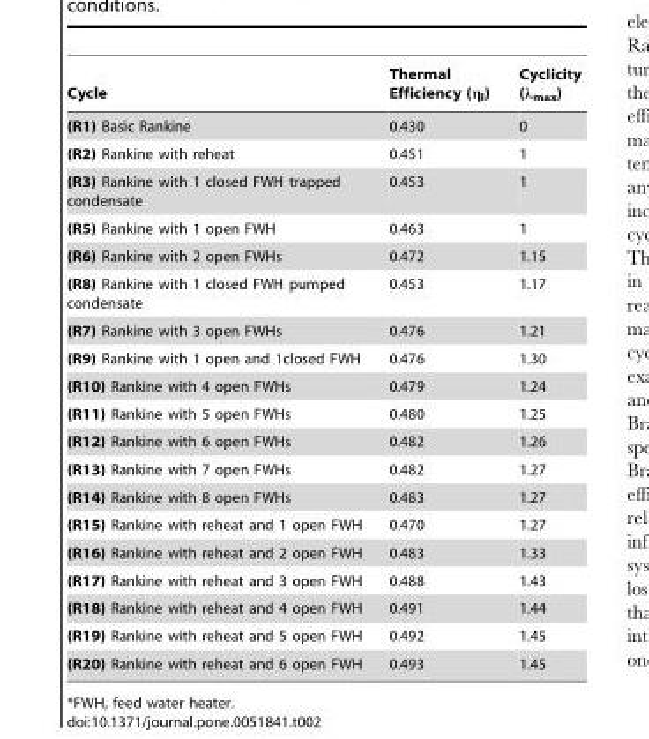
<table><thead><tr><td>Cycle</td><td>Thermal Efficiency (η<sub>I</sub>)</td><td>Cyclicity (λ<sub>max</sub>)</td></tr></thead><tbody><tr><td>(R1) Basic Rankine</td><td>0.430</td><td>0</td></tr><tr><td>(R2) Rankine with reheat</td><td>0.451</td><td>1</td></tr><tr><td>(R3) Rankine with 1 closed FWH trapped condensate</td><td>0.453</td><td>1</td></tr><tr><td>(R5) Rankine with 1 open FWH</td><td>0.463</td><td>1</td></tr><tr><td>(R6) Rankine with 2 open FWHs</td><td>0.472</td><td>1.15</td></tr><tr><td>(R8) Rankine with 1 closed FWH pumped condensate</td><td>0.453</td><td>1.17</td></tr><tr><td>(R7) Rankine with 3 open FWHs</td><td>0.476</td><td>1.21</td></tr><tr><td>(R9) Rankine with 1 open and 1closed FWH</td><td>0.476</td><td>1.30</td></tr><tr><td>(R10) Rankine with 4 open FWHs</td><td>0.479</td><td>1.24</td></tr><tr><td>(R11) Rankine with 5 open FWHs</td><td>0.480</td><td>1.25</td></tr><tr><td>(R12) Rankine with 6 open FWHs</td><td>0.482</td><td>1.26</td></tr><tr><td>(R13) Rankine with 7 open FWHs</td><td>0.482</td><td>1.27</td></tr><tr><td>(R14) Rankine with 8 open FWHs</td><td>0.483</td><td>1.27</td></tr><tr><td>(R15) Rankine with reheat and 1 open FWH</td><td>0.470</td><td>1.27</td></tr><tr><td>(R16) Rankine with reheat and 2 open FWH</td><td>0.483</td><td>1.33</td></tr><tr><td>(R17) Rankine with reheat and 3 open FWH</td><td>0.488</td><td>1.43</td></tr><tr><td>(R18) Rankine with reheat and 4 open FWH</td><td>0.491</td><td>1.44</td></tr><tr><td>(R19) Rankine with reheat and 5 open FWH</td><td>0.492</td><td>1.45</td></tr><tr><td>(R20) Rankine with reheat and 6 open FWH</td><td>0.493</td><td>1.45</td></tr></tbody></table>